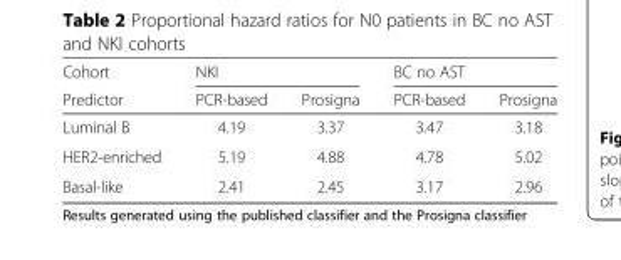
<table><thead><tr><td rowspan="2">Cohort Predictor</td><td colspan="2">NKI</td><td colspan="2">BC no AST</td></tr><tr><td>PCR-based</td><td>Prosigna</td><td>PCR-based</td><td>Prosigna</td></tr></thead><tbody><tr><td>Luminal B</td><td>4.19</td><td>3.37</td><td>3.47</td><td>3.18</td></tr><tr><td>HER2-enriched</td><td>5.19</td><td>4.88</td><td>4.78</td><td>5.02</td></tr><tr><td>Basal-like</td><td>2.41</td><td>2.45</td><td>3.17</td><td>2.96</td></tr></tbody></table>